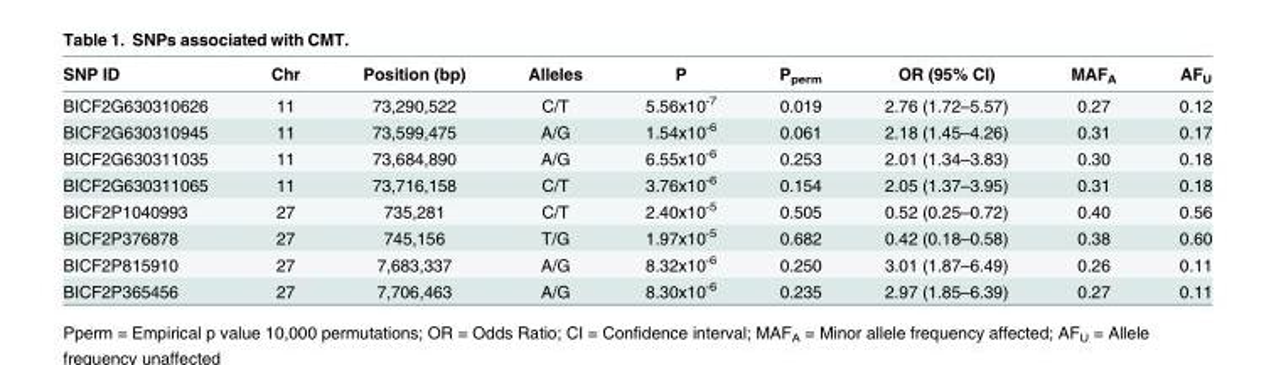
<table><thead><tr><td>SNP ID</td><td>Chr</td><td>Position (bp)</td><td>Alleles</td><td>P</td><td>P<sub>perm</sub></td><td>OR (95% CI)</td><td>MAF<sub>A</sub></td><td>AF<sub>U</sub></td></tr></thead><tbody><tr><td>BICF2G630310626</td><td>11</td><td>73,290,522</td><td>C/T</td><td>5.56x10<sup>-7</sup></td><td>0.019</td><td>2.76 (1.72–5.57)</td><td>0.27</td><td>0.12</td></tr><tr><td>BICF2G630310945</td><td>11</td><td>73,599,475</td><td>A/G</td><td>1.54x10<sup>-6</sup></td><td>0.061</td><td>2.18 (1.45–4.26)</td><td>0.31</td><td>0.17</td></tr><tr><td>BICF2G630311035</td><td>11</td><td>73,684,890</td><td>A/G</td><td>6.55x10<sup>-6</sup></td><td>0.253</td><td>2.01 (1.34–3.83)</td><td>0.30</td><td>0.18</td></tr><tr><td>BICF2G630311065</td><td>11</td><td>73,716,158</td><td>C/T</td><td>3.76x10<sup>-6</sup></td><td>0.154</td><td>2.05 (1.37–3.95)</td><td>0.31</td><td>0.18</td></tr><tr><td>BICF2P1040993</td><td>27</td><td>735,281</td><td>C/T</td><td>2.40x10<sup>-5</sup></td><td>0.505</td><td>0.52 (0.25–0.72)</td><td>0.40</td><td>0.56</td></tr><tr><td>BICF2P376878</td><td>27</td><td>745,156</td><td>T/G</td><td>1.97x10<sup>-5</sup></td><td>0.682</td><td>0.42 (0.18–0.58)</td><td>0.38</td><td>0.60</td></tr><tr><td>BICF2P815910</td><td>27</td><td>7,683,337</td><td>A/G</td><td>8.32x10<sup>-6</sup></td><td>0.250</td><td>3.01 (1.87–6.49)</td><td>0.26</td><td>0.11</td></tr><tr><td>BICF2P365456</td><td>27</td><td>7,706,463</td><td>A/G</td><td>8.30x10<sup>-6</sup></td><td>0.235</td><td>2.97 (1.85–6.39)</td><td>0.27</td><td>0.11</td></tr></tbody></table>